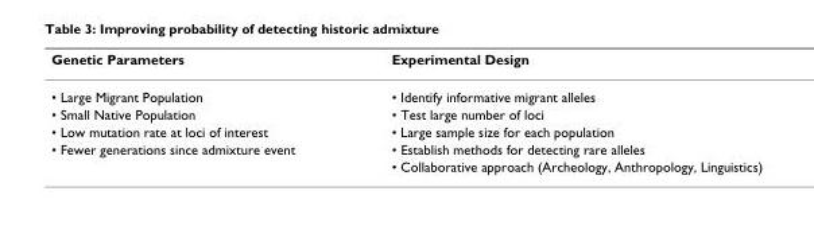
<table><thead><tr><td>Genetic Parameters</td><td>Experimental Design</td></tr></thead><tbody><tr><td>• Large Migrant Population</td><td>• Identify informative migrant alleles</td></tr><tr><td>• Small Native Population</td><td>• Test large number of loci</td></tr><tr><td>• Low mutation rate at loci of interest</td><td>• Large sample size for each population</td></tr><tr><td rowspan="2">• Fewer generations since admixture event</td><td>• Establish methods for detecting rare alleles</td></tr><tr><td>• Collaborative approach (Archeology, Anthropology, Linguistics)</td></tr></tbody></table>